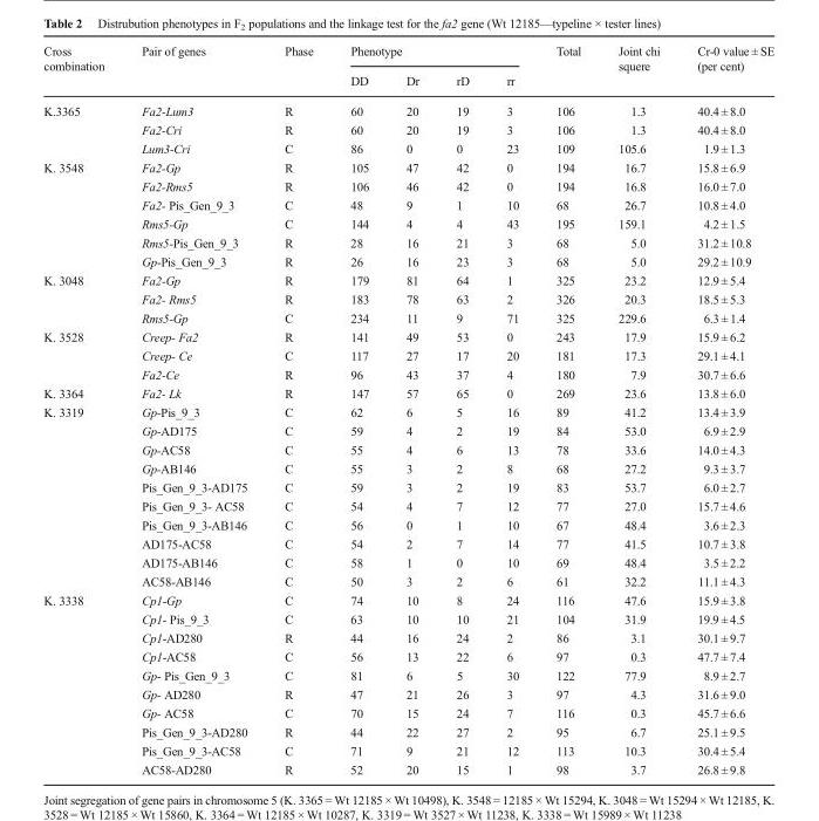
<table><thead><tr><td rowspan="2">Cross combination</td><td rowspan="2">Pair of genes</td><td rowspan="2">Phase</td><td colspan="4">Phenotype</td><td rowspan="2">Total</td><td rowspan="2">Joint chi squere</td><td rowspan="2">Cr-0 value ± SE (per cent)</td></tr><tr><td>DD</td><td>Dr</td><td>rD</td><td>rr</td></tr></thead><tbody><tr><td rowspan="3">K.3365</td><td>Fa2-Lum3</td><td>R</td><td>60</td><td>20</td><td>19</td><td>3</td><td>106</td><td>1.3</td><td>40.4 ± 8.0</td></tr><tr><td>Fa2-Cri</td><td>R</td><td>60</td><td>20</td><td>19</td><td>3</td><td>106</td><td>1.3</td><td>40.4 ± 8.0</td></tr><tr><td>Lum3-Cri</td><td>C</td><td>86</td><td>0</td><td>0</td><td>23</td><td>109</td><td>105.6</td><td>1.9 ± 1.3</td></tr><tr><td rowspan="6">K. 3548</td><td>Fa2-Gp</td><td>R</td><td>105</td><td>47</td><td>42</td><td>0</td><td>194</td><td>16.7</td><td>15.8 ± 6.9</td></tr><tr><td>Fa2-Rms5</td><td>R</td><td>106</td><td>46</td><td>42</td><td>0</td><td>194</td><td>16.8</td><td>16.0 ± 7.0</td></tr><tr><td>Fa2- Pis_Gen_9_3</td><td>C</td><td>48</td><td>9</td><td>1</td><td>10</td><td>68</td><td>26.7</td><td>10.8 ± 4.0</td></tr><tr><td>Rms5-Gp</td><td>C</td><td>144</td><td>4</td><td>4</td><td>43</td><td>195</td><td>159.1</td><td>4.2 ± 1.5</td></tr><tr><td>Rms5-Pis_Gen_9_3</td><td>R</td><td>28</td><td>16</td><td>21</td><td>3</td><td>68</td><td>5.0</td><td>31.2 ± 10.8</td></tr><tr><td>Gp-Pis_Gen_9_3</td><td>R</td><td>26</td><td>16</td><td>23</td><td>3</td><td>68</td><td>5.0</td><td>29.2 ± 10.9</td></tr><tr><td rowspan="3">K. 3048</td><td>Fa2-Gp</td><td>R</td><td>179</td><td>81</td><td>64</td><td>1</td><td>325</td><td>23.2</td><td>12.9 ± 5.4</td></tr><tr><td>Fa2- Rms5</td><td>R</td><td>183</td><td>78</td><td>63</td><td>2</td><td>326</td><td>20.3</td><td>18.5 ± 5.3</td></tr><tr><td>Rms5-Gp</td><td>C</td><td>234</td><td>11</td><td>9</td><td>71</td><td>325</td><td>229.6</td><td>6.3 ± 1.4</td></tr><tr><td rowspan="3">K. 3528</td><td>Creep- Fa2</td><td>R</td><td>141</td><td>49</td><td>53</td><td>0</td><td>243</td><td>17.9</td><td>15.9 ± 6.2</td></tr><tr><td>Creep- Ce</td><td>C</td><td>117</td><td>27</td><td>17</td><td>20</td><td>181</td><td>17.3</td><td>29.1 ± 4.1</td></tr><tr><td>Fa2-Ce</td><td>R</td><td>96</td><td>43</td><td>37</td><td>4</td><td>180</td><td>7.9</td><td>30.7 ± 6.6</td></tr><tr><td>K. 3364</td><td>Fa2- Lk</td><td>R</td><td>147</td><td>57</td><td>65</td><td>0</td><td>269</td><td>23.6</td><td>13.8 ± 6.0</td></tr><tr><td rowspan="10">K. 3319</td><td>Gp-Pis_9_3</td><td>C</td><td>62</td><td>6</td><td>5</td><td>16</td><td>89</td><td>41.2</td><td>13.4 ± 3.9</td></tr><tr><td>Gp-AD175</td><td>C</td><td>59</td><td>4</td><td>2</td><td>19</td><td>84</td><td>53.0</td><td>6.9 ± 2.9</td></tr><tr><td>Gp-AC58</td><td>C</td><td>55</td><td>4</td><td>6</td><td>13</td><td>78</td><td>33.6</td><td>14.0 ± 4.3</td></tr><tr><td>Gp-AB146</td><td>C</td><td>55</td><td>3</td><td>2</td><td>8</td><td>68</td><td>27.2</td><td>9.3 ± 3.7</td></tr><tr><td>Pis_Gen_9_3-AD175</td><td>C</td><td>59</td><td>3</td><td>2</td><td>19</td><td>83</td><td>53.7</td><td>6.0 ± 2.7</td></tr><tr><td>Pis_Gen_9_3- AC58</td><td>C</td><td>54</td><td>4</td><td>7</td><td>12</td><td>77</td><td>27.0</td><td>15.7 ± 4.6</td></tr><tr><td>Pis_Gen_9_3-AB146</td><td>C</td><td>56</td><td>0</td><td>1</td><td>10</td><td>67</td><td>48.4</td><td>3.6 ± 2.3</td></tr><tr><td>AD175-AC58</td><td>C</td><td>54</td><td>2</td><td>7</td><td>14</td><td>77</td><td>41.5</td><td>10.7 ± 3.8</td></tr><tr><td>AD175-AB146</td><td>C</td><td>58</td><td>1</td><td>0</td><td>10</td><td>69</td><td>48.4</td><td>3.5 ± 2.2</td></tr><tr><td>AC58-AB146</td><td>C</td><td>50</td><td>3</td><td>2</td><td>6</td><td>61</td><td>32.2</td><td>11.1 ± 4.3</td></tr><tr><td rowspan="10">K. 3338</td><td>Cp1-Gp</td><td>C</td><td>74</td><td>10</td><td>8</td><td>24</td><td>116</td><td>47.6</td><td>15.9 ± 3.8</td></tr><tr><td>Cp1- Pis_9_3</td><td>C</td><td>63</td><td>10</td><td>10</td><td>21</td><td>104</td><td>31.9</td><td>19.9 ± 4.5</td></tr><tr><td>Cp1-AD280</td><td>R</td><td>44</td><td>16</td><td>24</td><td>2</td><td>86</td><td>3.1</td><td>30.1 ± 9.7</td></tr><tr><td>Cp1-AC58</td><td>C</td><td>56</td><td>13</td><td>22</td><td>6</td><td>97</td><td>0.3</td><td>47.7 ± 7.4</td></tr><tr><td>Gp- Pis_Gen_9_3</td><td>C</td><td>81</td><td>6</td><td>5</td><td>30</td><td>122</td><td>77.9</td><td>8.9 ± 2.7</td></tr><tr><td>Gp- AD280</td><td>R</td><td>47</td><td>21</td><td>26</td><td>3</td><td>97</td><td>4.3</td><td>31.6 ± 9.0</td></tr><tr><td>Gp- AC58</td><td>C</td><td>70</td><td>15</td><td>24</td><td>7</td><td>116</td><td>0.3</td><td>45.7 ± 6.6</td></tr><tr><td>Pis_Gen_9_3-AD280</td><td>R</td><td>44</td><td>22</td><td>27</td><td>2</td><td>95</td><td>6.7</td><td>25.1 ± 9.5</td></tr><tr><td>Pis_Gen_9_3-AC58</td><td>C</td><td>71</td><td>9</td><td>21</td><td>12</td><td>113</td><td>10.3</td><td>30.4 ± 5.4</td></tr><tr><td>AC58-AD280</td><td>R</td><td>52</td><td>20</td><td>15</td><td>1</td><td>98</td><td>3.7</td><td>26.8 ± 9.8</td></tr></tbody></table>